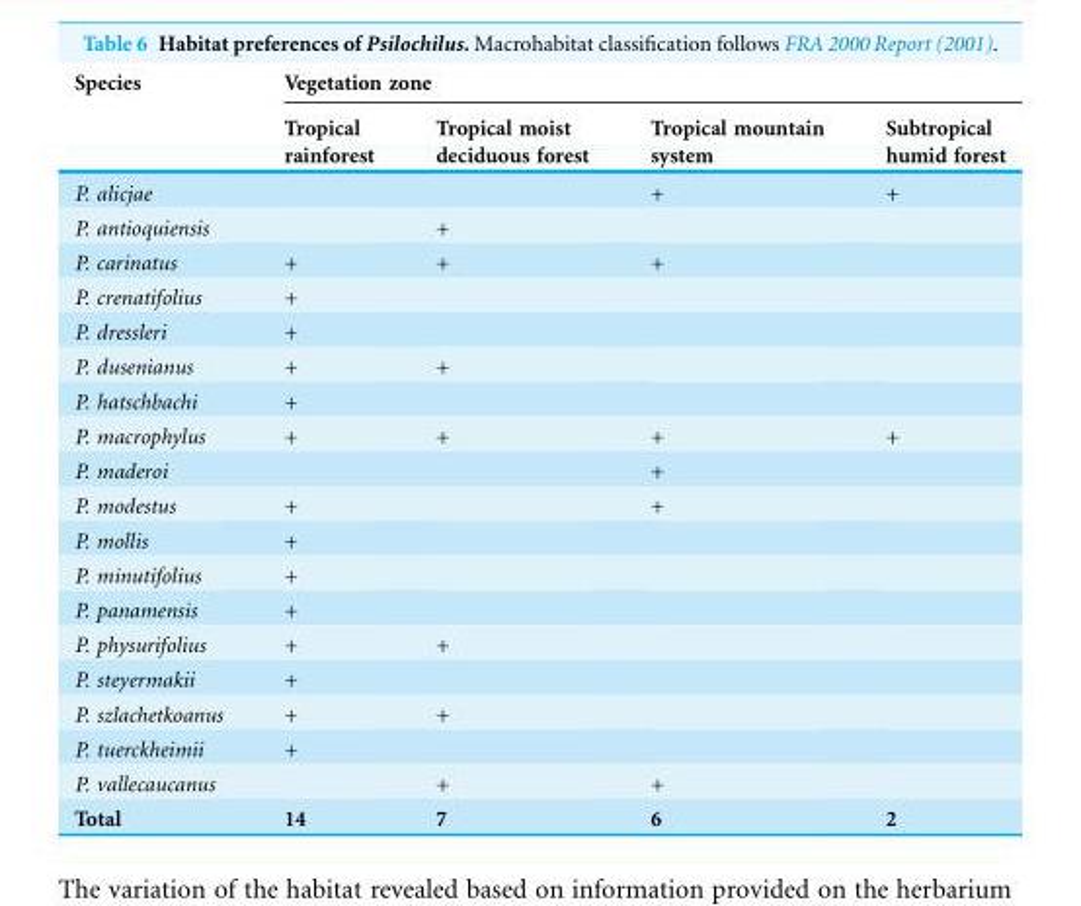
<table><thead><tr><td rowspan="2">Species</td><td colspan="4">Vegetation zone</td></tr><tr><td>Tropical rainforest</td><td>Tropical moist deciduous forest</td><td>Tropical mountain system</td><td>Subtropical humid forest</td></tr></thead><tbody><tr><td>P. alicjae</td><td></td><td></td><td>+</td><td>+</td></tr><tr><td>P. antioquiensis</td><td></td><td>+</td><td></td><td></td></tr><tr><td>P. carinatus</td><td>+</td><td>+</td><td>+</td><td></td></tr><tr><td>P. crenatifolius</td><td>+</td><td></td><td></td><td></td></tr><tr><td>P. dressleri</td><td>+</td><td></td><td></td><td></td></tr><tr><td>P. dusenianus</td><td>+</td><td>+</td><td></td><td></td></tr><tr><td>P. hatschbachi</td><td>+</td><td></td><td></td><td></td></tr><tr><td>P. macrophylus</td><td>+</td><td>+</td><td>+</td><td>+</td></tr><tr><td>P. maderoi</td><td></td><td></td><td>+</td><td></td></tr><tr><td>P. modestus</td><td>+</td><td></td><td>+</td><td></td></tr><tr><td>P. mollis</td><td>+</td><td></td><td></td><td></td></tr><tr><td>P. minutifolius</td><td>+</td><td></td><td></td><td></td></tr><tr><td>P. panamensis</td><td>+</td><td></td><td></td><td></td></tr><tr><td>P. physurifolius</td><td>+</td><td>+</td><td></td><td></td></tr><tr><td>P. steyermakii</td><td>+</td><td></td><td></td><td></td></tr><tr><td>P. szlachetkoanus</td><td>+</td><td>+</td><td></td><td></td></tr><tr><td>P. tuerckheimii</td><td>+</td><td></td><td></td><td></td></tr><tr><td>P. vallecaucanus</td><td></td><td>+</td><td>+</td><td></td></tr><tr><td>Total</td><td>14</td><td>7</td><td>6</td><td>2</td></tr></tbody></table>